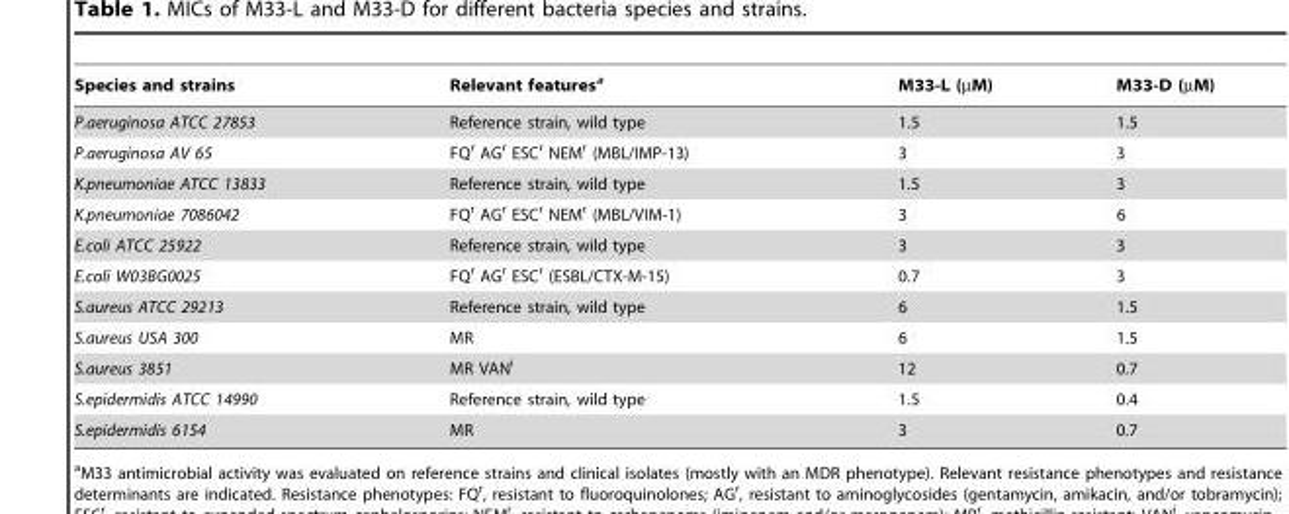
<table><thead><tr><td>Species and strains</td><td>Relevant features<sup>a</sup></td><td>M33-L (µM)</td><td>M33-D (µM)</td></tr></thead><tbody><tr><td>P.aeruginosa ATCC 27853</td><td>Reference strain, wild type</td><td>1.5</td><td>1.5</td></tr><tr><td>P.aeruginosa AV 65</td><td>FQ<sup>r</sup> AG<sup>r</sup> ESC<sup>r</sup> NEM<sup>r</sup> (MBL/IMP-13)</td><td>3</td><td>3</td></tr><tr><td>K.pneumoniae ATCC 13833</td><td>Reference strain, wild type</td><td>1.5</td><td>3</td></tr><tr><td>K.pneumoniae 7086042</td><td>FQ<sup>r</sup> AG<sup>r</sup> ESC<sup>r</sup> NEM<sup>r</sup> (MBL/VIM-1)</td><td>3</td><td>6</td></tr><tr><td>E.coli ATCC 25922</td><td>Reference strain, wild type</td><td>3</td><td>3</td></tr><tr><td>E.coli W03BG0025</td><td>FQ<sup>r</sup> AG<sup>r</sup> ESC<sup>r</sup> (ESBL/CTX-M-15)</td><td>0.7</td><td>3</td></tr><tr><td>S.aureus ATCC 29213</td><td>Reference strain, wild type</td><td>6</td><td>1.5</td></tr><tr><td>S.aureus USA 300</td><td>MR</td><td>6</td><td>1.5</td></tr><tr><td>S.aureus 3851</td><td>MR VAN<sup>i</sup></td><td>12</td><td>0.7</td></tr><tr><td>S.epidermidis ATCC 14990</td><td>Reference strain, wild type</td><td>1.5</td><td>0.4</td></tr><tr><td>S.epidermidis 6154</td><td>MR</td><td>3</td><td>0.7</td></tr></tbody></table>